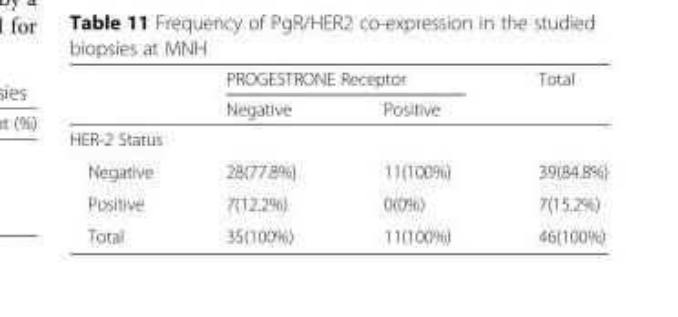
<table><thead><tr><td rowspan="2"></td><td colspan="2">PROGESTRONE Receptor</td><td rowspan="2">Total</td></tr><tr><td>Negative</td><td>Positive</td></tr></thead><tbody><tr><td colspan="4">HER-2 Status</td></tr><tr><td>Negative</td><td>28(77.8%)</td><td>11(100%)</td><td>39(84.8%)</td></tr><tr><td>Positive</td><td>7(12.2%)</td><td>0(0%)</td><td>7(15.2%)</td></tr><tr><td>Total</td><td>35(100%)</td><td>11(100%)</td><td>46(100%)</td></tr></tbody></table>